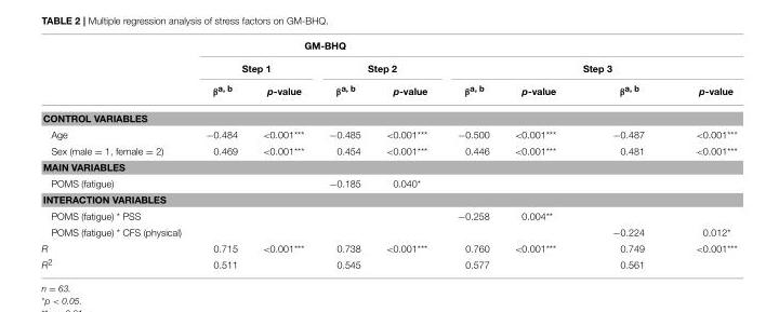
<table><thead><tr><td rowspan="3"></td><td colspan="8">GM-BHQ</td></tr><tr><td colspan="2">Step 1</td><td colspan="2">Step 2</td><td colspan="4">Step 3</td></tr><tr><td>β<sup>a, b</sup></td><td>p-value</td><td>β<sup>a, b</sup></td><td>p-value</td><td>β<sup>a, b</sup></td><td>p-value</td><td>β<sup>a, b</sup></td><td>p-value</td></tr></thead><tbody><tr><td colspan="9">CONTROL VARIABLES</td></tr><tr><td>Age</td><td>−0.484</td><td>&lt;0.001***</td><td>−0.485</td><td>&lt;0.001***</td><td>−0.500</td><td>&lt;0.001***</td><td>−0.487</td><td>&lt;0.001***</td></tr><tr><td>Sex (male = 1, female = 2)</td><td>0.469</td><td>&lt;0.001***</td><td>0.454</td><td>&lt;0.001***</td><td>0.446</td><td>&lt;0.001***</td><td>0.481</td><td>&lt;0.001***</td></tr><tr><td colspan="9">MAIN VARIABLES</td></tr><tr><td>POMS (fatigue)</td><td></td><td></td><td>−0.185</td><td>0.040*</td><td></td><td></td><td></td><td></td></tr><tr><td colspan="9">INTERACTION VARIABLES</td></tr><tr><td>POMS (fatigue) * PSS</td><td></td><td></td><td></td><td></td><td>−0.258</td><td>0.004**</td><td></td><td></td></tr><tr><td>POMS (fatigue) * CFS (physical)</td><td></td><td></td><td></td><td></td><td></td><td></td><td>−0.224</td><td>0.012*</td></tr><tr><td>R</td><td>0.715</td><td>&lt;0.001***</td><td>0.738</td><td>&lt;0.001***</td><td>0.760</td><td>&lt;0.001***</td><td>0.749</td><td>&lt;0.001***</td></tr><tr><td>R<sup>2</sup></td><td>0.511</td><td></td><td>0.545</td><td></td><td>0.577</td><td></td><td>0.561</td><td></td></tr></tbody></table>